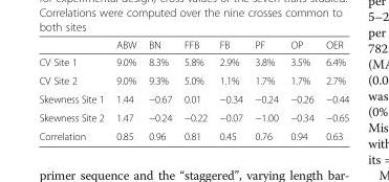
<table><thead><tr><td></td><td>ABW</td><td>BN</td><td>FFB</td><td>FB</td><td>PF</td><td>OP</td><td>OER</td></tr></thead><tbody><tr><td>CV Site 1</td><td>9.0%</td><td>8.3%</td><td>5.8%</td><td>2.9%</td><td>3.8%</td><td>3.5%</td><td>6.4%</td></tr><tr><td>CV Site 2</td><td>9.0%</td><td>9.3%</td><td>5.0%</td><td>1.1%</td><td>1.7%</td><td>1.7%</td><td>2.7%</td></tr><tr><td>Skewness Site 1</td><td>1.44</td><td>−0.67</td><td>0.01</td><td>−0.34</td><td>−0.24</td><td>−0.26</td><td>−0.44</td></tr><tr><td>Skewness Site 2</td><td>1.47</td><td>−0.24</td><td>−0.22</td><td>−0.07</td><td>−1.00</td><td>−0.34</td><td>−0.65</td></tr><tr><td>Correlation</td><td>0.85</td><td>0.96</td><td>0.81</td><td>0.45</td><td>0.76</td><td>0.94</td><td>0.63</td></tr></tbody></table>